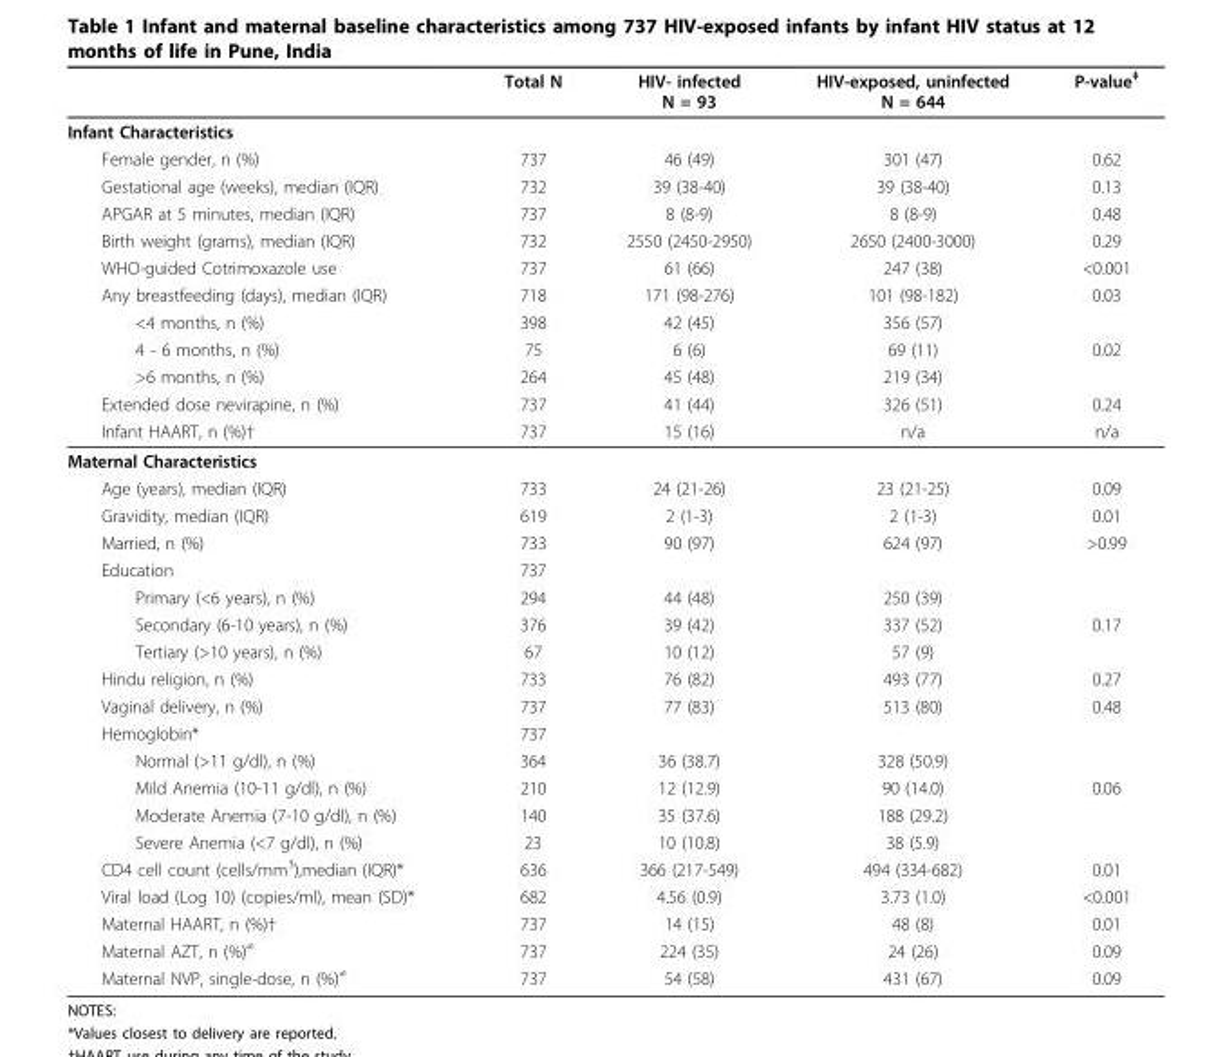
<table><thead><tr><td></td><td>Total N</td><td>HIV- infected N = 93</td><td>HIV-exposed, uninfected N = 644</td><td>P-value<sup>‡</sup></td></tr></thead><tbody><tr><td colspan="5">Infant Characteristics</td></tr><tr><td>Female gender, n (%)</td><td>737</td><td>46 (49)</td><td>301 (47)</td><td>0.62</td></tr><tr><td>Gestational age (weeks), median (IQR)</td><td>732</td><td>39 (38-40)</td><td>39 (38-40)</td><td>0.13</td></tr><tr><td>APGAR at 5 minutes, median (IQR)</td><td>737</td><td>8 (8-9)</td><td>8 (8-9)</td><td>0.48</td></tr><tr><td>Birth weight (grams), median (IQR)</td><td>732</td><td>2550 (2450-2950)</td><td>2650 (2400-3000)</td><td>0.29</td></tr><tr><td>WHO-guided Cotrimoxazole use</td><td>737</td><td>61 (66)</td><td>247 (38)</td><td>&lt;0.001</td></tr><tr><td>Any breastfeeding (days), median (IQR)</td><td>718</td><td>171 (98-276)</td><td>101 (98-182)</td><td>0.03</td></tr><tr><td>&lt;4 months, n (%)</td><td>398</td><td>42 (45)</td><td>356 (57)</td><td></td></tr><tr><td>4 - 6 months, n (%)</td><td>75</td><td>6 (6)</td><td>69 (11)</td><td>0.02</td></tr><tr><td>&gt;6 months, n (%)</td><td>264</td><td>45 (48)</td><td>219 (34)</td><td></td></tr><tr><td>Extended dose nevirapine, n (%)</td><td>737</td><td>41 (44)</td><td>326 (51)</td><td>0.24</td></tr><tr><td>Infant HAART, n (%)†</td><td>737</td><td>15 (16)</td><td>n/a</td><td>n/a</td></tr><tr><td colspan="5">Maternal Characteristics</td></tr><tr><td>Age (years), median (IQR)</td><td>733</td><td>24 (21-26)</td><td>23 (21-25)</td><td>0.09</td></tr><tr><td>Gravidity, median (IQR)</td><td>619</td><td>2 (1-3)</td><td>2 (1-3)</td><td>0.01</td></tr><tr><td>Married, n (%)</td><td>733</td><td>90 (97)</td><td>624 (97)</td><td>&gt;0.99</td></tr><tr><td>Education</td><td>737</td><td></td><td></td><td></td></tr><tr><td>Primary (&lt;6 years), n (%)</td><td>294</td><td>44 (48)</td><td>250 (39)</td><td></td></tr><tr><td>Secondary (6-10 years), n (%)</td><td>376</td><td>39 (42)</td><td>337 (52)</td><td>0.17</td></tr><tr><td>Tertiary (&gt;10 years), n (%)</td><td>67</td><td>10 (12)</td><td>57 (9)</td><td></td></tr><tr><td>Hindu religion, n (%)</td><td>733</td><td>76 (82)</td><td>493 (77)</td><td>0.27</td></tr><tr><td>Vaginal delivery, n (%)</td><td>737</td><td>77 (83)</td><td>513 (80)</td><td>0.48</td></tr><tr><td>Hemoglobin*</td><td>737</td><td></td><td></td><td></td></tr><tr><td>Normal (&gt;11 g/dl), n (%)</td><td>364</td><td>36 (38.7)</td><td>328 (50.9)</td><td></td></tr><tr><td>Mild Anemia (10-11 g/dl), n (%)</td><td>210</td><td>12 (12.9)</td><td>90 (14.0)</td><td>0.06</td></tr><tr><td>Moderate Anemia (7-10 g/dl), n (%)</td><td>140</td><td>35 (37.6)</td><td>188 (29.2)</td><td></td></tr><tr><td>Severe Anemia (&lt;7 g/dl), n (%)</td><td>23</td><td>10 (10.8)</td><td>38 (5.9)</td><td></td></tr><tr><td>CD4 cell count (cells/mm<sup>3</sup>),median (IQR)*</td><td>636</td><td>366 (217-549)</td><td>494 (334-682)</td><td>0.01</td></tr><tr><td>Viral load (Log 10) (copies/ml), mean (SD)*</td><td>682</td><td>4.56 (0.9)</td><td>3.73 (1.0)</td><td>&lt;0.001</td></tr><tr><td>Maternal HAART, n (%)†</td><td>737</td><td>14 (15)</td><td>48 (8)</td><td>0.01</td></tr><tr><td>Maternal AZT, n (%)<sup>≠</sup></td><td>737</td><td>224 (35)</td><td>24 (26)</td><td>0.09</td></tr><tr><td>Maternal NVP, single-dose, n (%)<sup>≠</sup></td><td>737</td><td>54 (58)</td><td>431 (67)</td><td>0.09</td></tr></tbody></table>